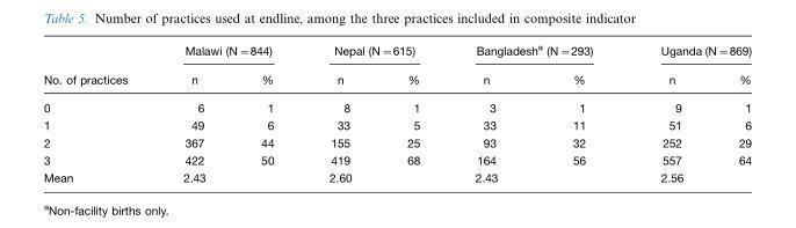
<table><thead><tr><td rowspan="2">No. of practices</td><td colspan="2">Malawi (N=844)</td><td colspan="2">Nepal (N=615)</td><td colspan="2">Bangladesh<sup>a</sup> (N=293)</td><td colspan="2">Uganda (N=869)</td></tr><tr><td>n</td><td>%</td><td>n</td><td>%</td><td>n</td><td>%</td><td>n</td><td>%</td></tr></thead><tbody><tr><td>0</td><td>6</td><td>1</td><td>8</td><td>1</td><td>3</td><td>1</td><td>9</td><td>1</td></tr><tr><td>1</td><td>49</td><td>6</td><td>33</td><td>5</td><td>33</td><td>11</td><td>51</td><td>6</td></tr><tr><td>2</td><td>367</td><td>44</td><td>155</td><td>25</td><td>93</td><td>32</td><td>252</td><td>29</td></tr><tr><td>3</td><td>422</td><td>50</td><td>419</td><td>68</td><td>164</td><td>56</td><td>557</td><td>64</td></tr><tr><td>Mean</td><td>2.43</td><td></td><td>2.60</td><td></td><td>2.43</td><td></td><td>2.56</td><td></td></tr></tbody></table>